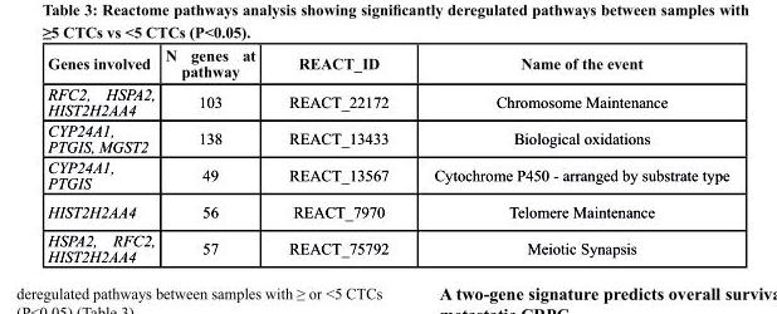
<table><thead><tr><td>Genes involved</td><td>N genes at pathway</td><td>rEAct_ID</td><td>Name of the event</td></tr></thead><tbody><tr><td>RFC2, HSPA2, HIST2H2AA4</td><td>103</td><td>REACT_22172</td><td>Chromosome Maintenance</td></tr><tr><td>CYP24A1, PTGIS, MGST2</td><td>138</td><td>REACT_13433</td><td>Biological oxidations</td></tr><tr><td>CYP24A1, PTGIS</td><td>49</td><td>REACT_13567</td><td>Cytochrome P450 - arranged by substrate type</td></tr><tr><td>HIST2H2AA4</td><td>56</td><td>REACT_7970</td><td>Telomere Maintenance</td></tr><tr><td>HSPA2, RFC2, HIST2H2AA4</td><td>57</td><td>REACT_75792</td><td>Meiotic Synapsis</td></tr></tbody></table>